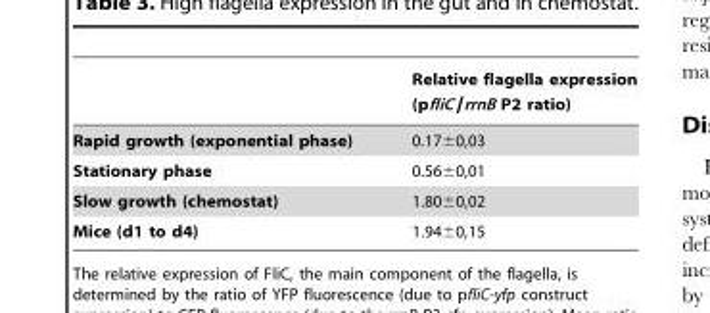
<table><thead><tr><td></td><td>Relative flagella expression (pfliC/rrnB P2 ratio)</td></tr></thead><tbody><tr><td>Rapid growth (exponential phase)</td><td>0.17±0,03</td></tr><tr><td>Stationary phase</td><td>0.56±0,01</td></tr><tr><td>Slow growth (chemostat)</td><td>1.80±0,02</td></tr><tr><td>Mice (d1 to d4)</td><td>1.94±0,15</td></tr></tbody></table>